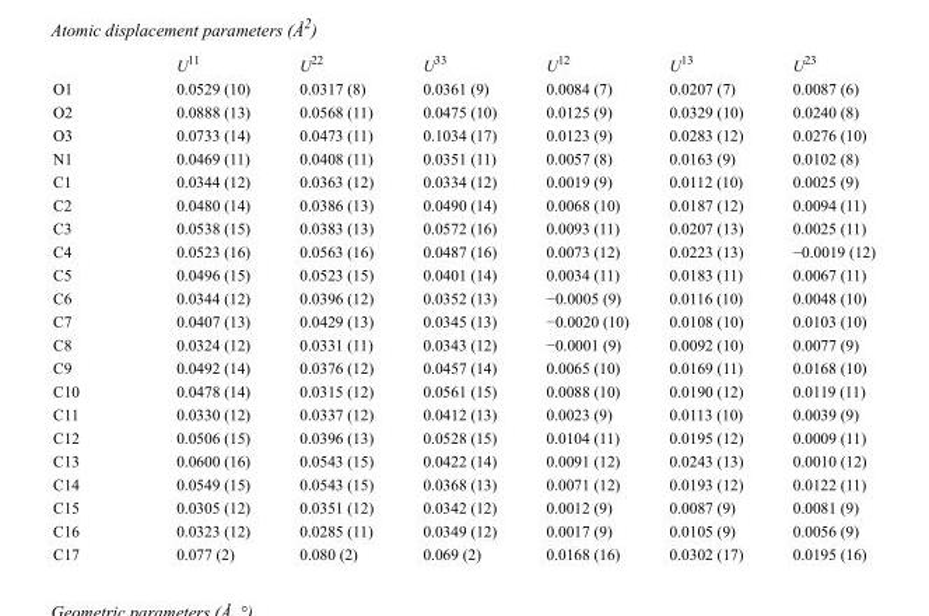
<table><thead><tr><td></td><td>U<sup>11</sup></td><td>U<sup>22</sup></td><td>U<sup>33</sup></td><td>U<sup>12</sup></td><td>U<sup>13</sup></td><td>U<sup>23</sup></td></tr></thead><tbody><tr><td>O1</td><td>0.0529 (10)</td><td>0.0317 (8)</td><td>0.0361 (9)</td><td>0.0084 (7)</td><td>0.0207 (7)</td><td>0.0087 (6)</td></tr><tr><td>O2</td><td>0.0888 (13)</td><td>0.0568 (11)</td><td>0.0475 (10)</td><td>0.0125 (9)</td><td>0.0329 (10)</td><td>0.0240 (8)</td></tr><tr><td>O3</td><td>0.0733 (14)</td><td>0.0473 (11)</td><td>0.1034 (17)</td><td>0.0123 (9)</td><td>0.0283 (12)</td><td>0.0276 (10)</td></tr><tr><td>N1</td><td>0.0469 (11)</td><td>0.0408 (11)</td><td>0.0351 (11)</td><td>0.0057 (8)</td><td>0.0163 (9)</td><td>0.0102 (8)</td></tr><tr><td>C1</td><td>0.0344 (12)</td><td>0.0363 (12)</td><td>0.0334 (12)</td><td>0.0019 (9)</td><td>0.0112 (10)</td><td>0.0025 (9)</td></tr><tr><td>C2</td><td>0.0480 (14)</td><td>0.0386 (13)</td><td>0.0490 (14)</td><td>0.0068 (10)</td><td>0.0187 (12)</td><td>0.0094 (11)</td></tr><tr><td>C3</td><td>0.0538 (15)</td><td>0.0383 (13)</td><td>0.0572 (16)</td><td>0.0093 (11)</td><td>0.0207 (13)</td><td>0.0025 (11)</td></tr><tr><td>C4</td><td>0.0523 (16)</td><td>0.0563 (16)</td><td>0.0487 (16)</td><td>0.0073 (12)</td><td>0.0223 (13)</td><td>−0.0019 (12)</td></tr><tr><td>C5</td><td>0.0496 (15)</td><td>0.0523 (15)</td><td>0.0401 (14)</td><td>0.0034 (11)</td><td>0.0183 (11)</td><td>0.0067 (11)</td></tr><tr><td>C6</td><td>0.0344 (12)</td><td>0.0396 (12)</td><td>0.0352 (13)</td><td>−0.0005 (9)</td><td>0.0116 (10)</td><td>0.0048 (10)</td></tr><tr><td>C7</td><td>0.0407 (13)</td><td>0.0429 (13)</td><td>0.0345 (13)</td><td>−0.0020 (10)</td><td>0.0108 (10)</td><td>0.0103 (10)</td></tr><tr><td>C8</td><td>0.0324 (12)</td><td>0.0331 (11)</td><td>0.0343 (12)</td><td>−0.0001 (9)</td><td>0.0092 (10)</td><td>0.0077 (9)</td></tr><tr><td>C9</td><td>0.0492 (14)</td><td>0.0376 (12)</td><td>0.0457 (14)</td><td>0.0065 (10)</td><td>0.0169 (11)</td><td>0.0168 (10)</td></tr><tr><td>C10</td><td>0.0478 (14)</td><td>0.0315 (12)</td><td>0.0561 (15)</td><td>0.0088 (10)</td><td>0.0190 (12)</td><td>0.0119 (11)</td></tr><tr><td>C11</td><td>0.0330 (12)</td><td>0.0337 (12)</td><td>0.0412 (13)</td><td>0.0023 (9)</td><td>0.0113 (10)</td><td>0.0039 (9)</td></tr><tr><td>C12</td><td>0.0506 (15)</td><td>0.0396 (13)</td><td>0.0528 (15)</td><td>0.0104 (11)</td><td>0.0195 (12)</td><td>0.0009 (11)</td></tr><tr><td>C13</td><td>0.0600 (16)</td><td>0.0543 (15)</td><td>0.0422 (14)</td><td>0.0091 (12)</td><td>0.0243 (13)</td><td>0.0010 (12)</td></tr><tr><td>C14</td><td>0.0549 (15)</td><td>0.0543 (15)</td><td>0.0368 (13)</td><td>0.0071 (12)</td><td>0.0193 (12)</td><td>0.0122 (11)</td></tr><tr><td>C15</td><td>0.0305 (12)</td><td>0.0351 (12)</td><td>0.0342 (12)</td><td>0.0012 (9)</td><td>0.0087 (9)</td><td>0.0081 (9)</td></tr><tr><td>C16</td><td>0.0323 (12)</td><td>0.0285 (11)</td><td>0.0349 (12)</td><td>0.0017 (9)</td><td>0.0105 (9)</td><td>0.0056 (9)</td></tr><tr><td>C17</td><td>0.077 (2)</td><td>0.080 (2)</td><td>0.069 (2)</td><td>0.0168 (16)</td><td>0.0302 (17)</td><td>0.0195 (16)</td></tr></tbody></table>